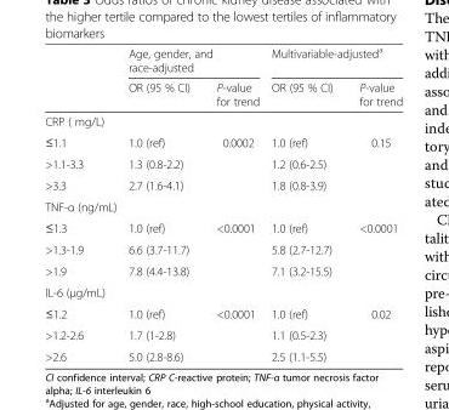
<table><thead><tr><td rowspan="2"></td><td colspan="2">Age, gender, and race-adjusted</td><td colspan="2">Multivariable-adjusted<sup>a</sup></td></tr><tr><td>OR (95 % CI)</td><td>P-value for trend</td><td>OR (95 % CI)</td><td>P-value for trend</td></tr></thead><tbody><tr><td colspan="5">CRP ( mg/L)</td></tr><tr><td>≤1.1</td><td>1.0 (ref)</td><td rowspan="3">0.0002</td><td>1.0 (ref)</td><td rowspan="3">0.15</td></tr><tr><td>&gt;1.1-3.3</td><td>1.3 (0.8-2.2)</td><td>1.2 (0.6-2.5)</td></tr><tr><td>&gt;3.3</td><td>2.7 (1.6-4.1)</td><td>1.8 (0.8-3.9)</td></tr><tr><td colspan="5">TNF-α (ng/mL)</td></tr><tr><td>≤1.3</td><td>1.0 (ref)</td><td rowspan="3">&lt;0.0001</td><td>1.0 (ref)</td><td rowspan="3">&lt;0.0001</td></tr><tr><td>&gt;1.3-1.9</td><td>6.6 (3.7-11.7)</td><td>5.8 (2.7-12.7)</td></tr><tr><td>&gt;1.9</td><td>7.8 (4.4-13.8)</td><td>7.1 (3.2-15.5)</td></tr><tr><td colspan="5">IL-6 (μg/mL)</td></tr><tr><td>≤1.2</td><td>1.0 (ref)</td><td rowspan="2">&lt;0.0001</td><td>1.0 (ref)</td><td rowspan="2">0.02</td></tr><tr><td>&gt;1.2-2.6</td><td>1.7 (1-2.8)</td><td>1.1 (0.5-2.3)</td></tr><tr><td>&gt;2.6</td><td>5.0 (2.8-8.6)</td><td></td><td>2.5 (1.1-5.5)</td><td></td></tr></tbody></table>